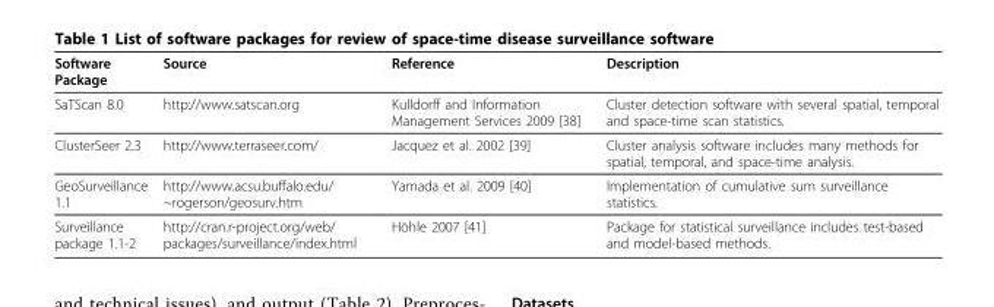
<table><thead><tr><td>Software Package</td><td>Source</td><td>Reference</td><td>Description</td></tr></thead><tbody><tr><td>SaTScan 8.0</td><td>http://www.satscan.org</td><td>Kulldorff and Information Management Services 2009 [38]</td><td>Cluster detection software with several spatial, temporal and space-time scan statistics.</td></tr><tr><td>ClusterSeer 2.3</td><td>http://www.terraseer.com/</td><td>Jacquez et al. 2002 [39]</td><td>Cluster analysis software includes many methods for spatial, temporal, and space-time analysis.</td></tr><tr><td>GeoSurveillance 1.1</td><td>http://www.acsu.buffalo.edu/ ~rogerson/geosurv.htm</td><td>Yamada et al. 2009 [40]</td><td>Implementation of cumulative sum surveillance statistics.</td></tr><tr><td>Surveillance package 1.1-2</td><td>http://cran.r-project.org/web/ packages/surveillance/index.html</td><td>Höhle 2007 [41]</td><td>Package for statistical surveillance includes test-based and model-based methods.</td></tr></tbody></table>